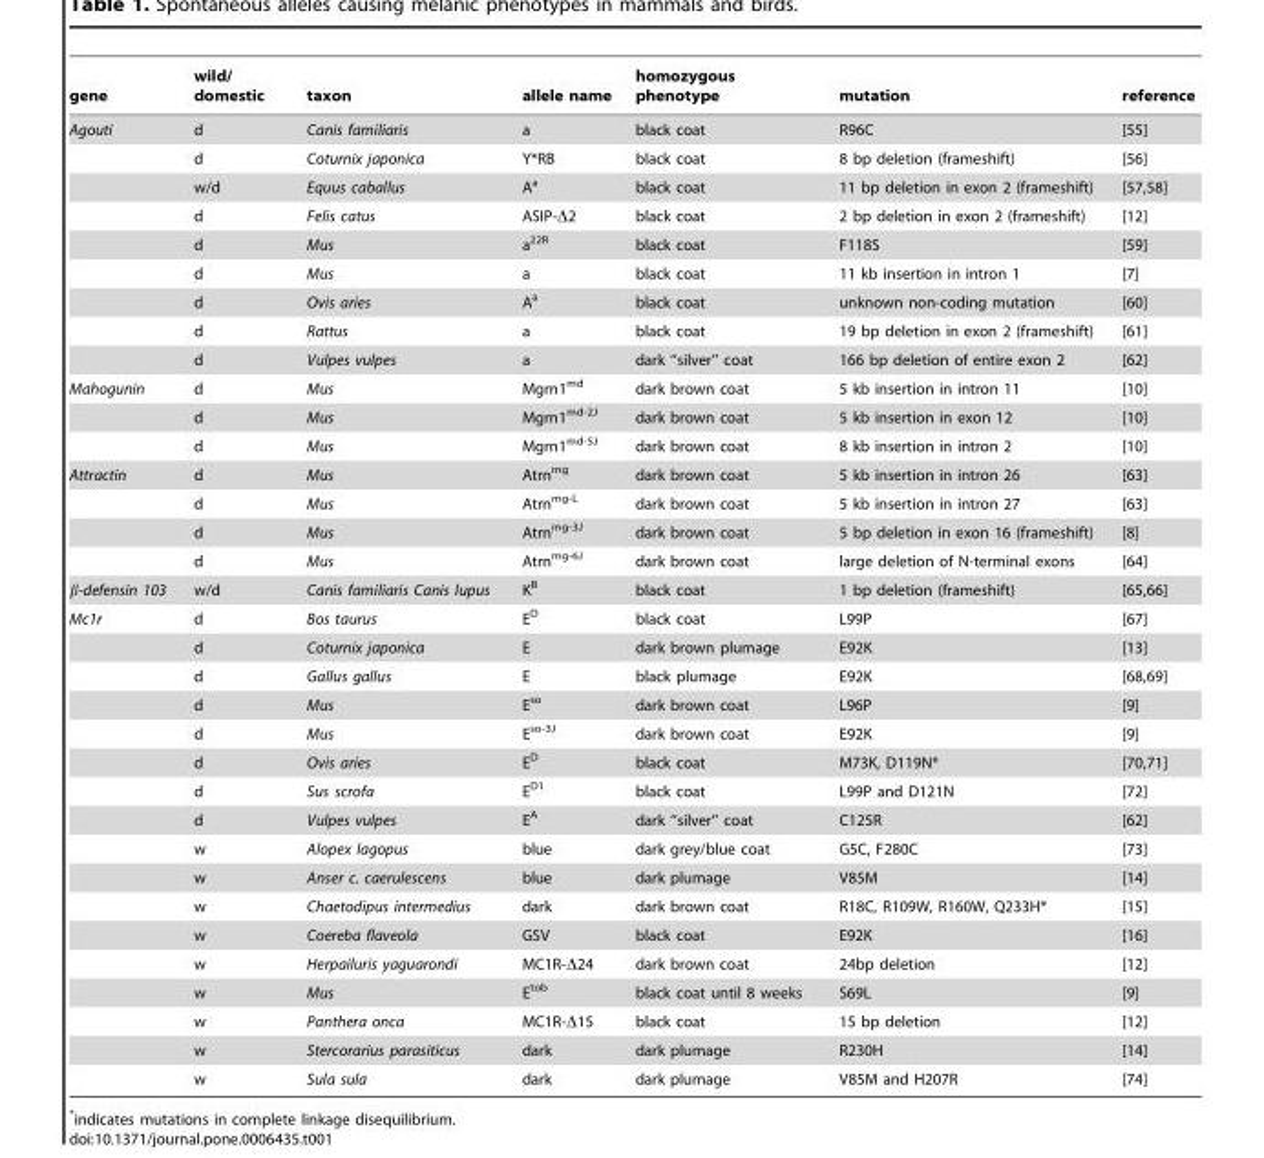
<table><thead><tr><td>gene</td><td>wild/ domestic</td><td>taxon</td><td>allele name</td><td>homozygous phenotype</td><td>mutation</td><td>reference</td></tr></thead><tbody><tr><td rowspan="9">Agouti</td><td>d</td><td>Canis familiaris</td><td>a</td><td>black coat</td><td>R96C</td><td>[55]</td></tr><tr><td>d</td><td>Coturnix japonica</td><td>Y*RB</td><td>black coat</td><td>8 bp deletion (frameshift)</td><td>[56]</td></tr><tr><td>w/d</td><td>Equus caballus</td><td>A<sup>a</sup></td><td>black coat</td><td>11 bp deletion in exon 2 (frameshift)</td><td>[57,58]</td></tr><tr><td>d</td><td>Felis catus</td><td>ASIP-Δ2</td><td>black coat</td><td>2 bp deletion in exon 2 (frameshift)</td><td>[12]</td></tr><tr><td>d</td><td>Mus</td><td>a<sup>22R</sup></td><td>black coat</td><td>F118S</td><td>[59]</td></tr><tr><td>d</td><td>Mus</td><td>a</td><td>black coat</td><td>11 kb insertion in intron 1</td><td>[7]</td></tr><tr><td>d</td><td>Ovis aries</td><td>A<sup>a</sup></td><td>black coat</td><td>unknown non-coding mutation</td><td>[60]</td></tr><tr><td>d</td><td>Rattus</td><td>a</td><td>black coat</td><td>19 bp deletion in exon 2 (frameshift)</td><td>[61]</td></tr><tr><td>d</td><td>Vulpes vulpes</td><td>a</td><td>dark ‘‘silver’’ coat</td><td>166 bp deletion of entire exon 2</td><td>[62]</td></tr><tr><td rowspan="3">Mahogunin</td><td>d</td><td>Mus</td><td>Mgrn1<sup>md</sup></td><td>dark brown coat</td><td>5 kb insertion in intron 11</td><td>[10]</td></tr><tr><td>d</td><td>Mus</td><td>Mgrn1<sup>md-2J</sup></td><td>dark brown coat</td><td>5 kb insertion in exon 12</td><td>[10]</td></tr><tr><td>d</td><td>Mus</td><td>Mgrn1<sup>md-5J</sup></td><td>dark brown coat</td><td>8 kb insertion in intron 2</td><td>[10]</td></tr><tr><td rowspan="4">Attractin</td><td>d</td><td>Mus</td><td>Atrn<sup>mg</sup></td><td>dark brown coat</td><td>5 kb insertion in intron 26</td><td>[63]</td></tr><tr><td>d</td><td>Mus</td><td>Atrn<sup>mg-L</sup></td><td>dark brown coat</td><td>5 kb insertion in intron 27</td><td>[63]</td></tr><tr><td>d</td><td>Mus</td><td>Atrn<sup>mg-3J</sup></td><td>dark brown coat</td><td>5 bp deletion in exon 16 (frameshift)</td><td>[8]</td></tr><tr><td>d</td><td>Mus</td><td>Atrn<sup>mg-6J</sup></td><td>dark brown coat</td><td>large deletion of N-terminal exons</td><td>[64]</td></tr><tr><td>β-defensin 103</td><td>w/d</td><td>Canis familiaris Canis lupus</td><td>K<sup>B</sup></td><td>black coat</td><td>1 bp deletion (frameshift)</td><td>[65,66]</td></tr><tr><td rowspan="17">Mc1r</td><td>d</td><td>Bos taurus</td><td>E<sup>D</sup></td><td>black coat</td><td>L99P</td><td>[67]</td></tr><tr><td>d</td><td>Coturnix japonica</td><td>E</td><td>dark brown plumage</td><td>E92K</td><td>[13]</td></tr><tr><td>d</td><td>Gallus gallus</td><td>E</td><td>black plumage</td><td>E92K</td><td>[68,69]</td></tr><tr><td>d</td><td>Mus</td><td>E<sup>so</sup></td><td>dark brown coat</td><td>L96P</td><td>[9]</td></tr><tr><td>d</td><td>Mus</td><td>E<sup>so-3J</sup></td><td>dark brown coat</td><td>E92K</td><td>[9]</td></tr><tr><td>d</td><td>Ovis aries</td><td>E<sup>D</sup></td><td>black coat</td><td>M73K, D119N*</td><td>[70,71]</td></tr><tr><td>d</td><td>Sus scrofa</td><td>E<sup>D1</sup></td><td>black coat</td><td>L99P and D121N</td><td>[72]</td></tr><tr><td>d</td><td>Vulpes vulpes</td><td>E<sup>A</sup></td><td>dark ‘‘silver’’ coat</td><td>C125R</td><td>[62]</td></tr><tr><td>w</td><td>Alopex lagopus</td><td>blue</td><td>dark grey/blue coat</td><td>G5C, F280C</td><td>[73]</td></tr><tr><td>w</td><td>Anser c. caerulescens</td><td>blue</td><td>dark plumage</td><td>V85M</td><td>[14]</td></tr><tr><td>w</td><td>Chaetodipus intermedius</td><td>dark</td><td>dark brown coat</td><td>R18C, R109W, R160W, Q233H*</td><td>[15]</td></tr><tr><td>w</td><td>Coereba flaveola</td><td>GSV</td><td>black coat</td><td>E92K</td><td>[16]</td></tr><tr><td>w</td><td>Herpailuris yaguarondi</td><td>MC1R-Δ24</td><td>dark brown coat</td><td>24bp deletion</td><td>[12]</td></tr><tr><td>w</td><td>Mus</td><td>E<sup>tob</sup></td><td>black coat until 8 weeks</td><td>S69L</td><td>[9]</td></tr><tr><td>w</td><td>Panthera onca</td><td>MC1R-Δ15</td><td>black coat</td><td>15 bp deletion</td><td>[12]</td></tr><tr><td>w</td><td>Stercorarius parasiticus</td><td>dark</td><td>dark plumage</td><td>R230H</td><td>[14]</td></tr><tr><td>w</td><td>Sula sula</td><td>dark</td><td>dark plumage</td><td>V85M and H207R</td><td>[74]</td></tr></tbody></table>